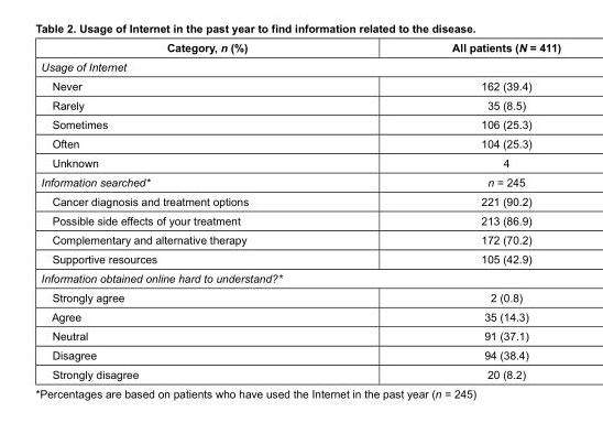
<table><thead><tr><td>Category, n (%)</td><td>All patients (N = 411)</td></tr></thead><tbody><tr><td colspan="2">Usage of Internet</td></tr><tr><td>Never</td><td>162 (39.4)</td></tr><tr><td>Rarely</td><td>35 (8.5)</td></tr><tr><td>Sometimes</td><td>106 (25.3)</td></tr><tr><td>Often</td><td>104 (25.3)</td></tr><tr><td>Unknown</td><td>4</td></tr><tr><td>Information searched*</td><td>n = 245</td></tr><tr><td>Cancer diagnosis and treatment options</td><td>221 (90.2)</td></tr><tr><td>Possible side effects of your treatment</td><td>213 (86.9)</td></tr><tr><td>Complementary and alternative therapy</td><td>172 (70.2)</td></tr><tr><td>Supportive resources</td><td>105 (42.9)</td></tr><tr><td colspan="2">Information obtained online hard to understand?*</td></tr><tr><td>Strongly agree</td><td>2 (0.8)</td></tr><tr><td>Agree</td><td>35 (14.3)</td></tr><tr><td>Neutral</td><td>91 (37.1)</td></tr><tr><td>Disagree</td><td>94 (38.4)</td></tr><tr><td>Strongly disagree</td><td>20 (8.2)</td></tr></tbody></table>